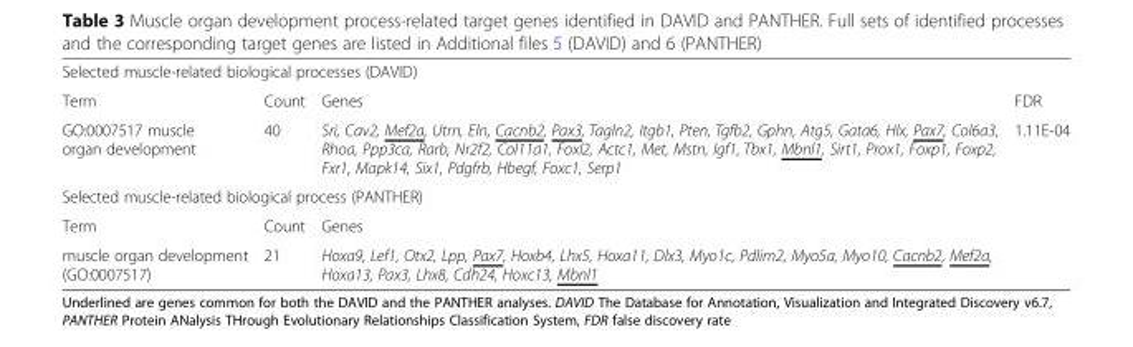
<table><tbody><tr><td colspan="4">Selected muscle-related biological processes (DAVID)</td></tr><tr><td>Term</td><td>Count</td><td>Genes</td><td>FDR</td></tr><tr><td>GO:0007517 muscle organ development</td><td>40</td><td>Sri, Cav2, Mef2a, Utrn, Eln, Cacnb2, Pax3, Tagln2, Itgb1, Pten, Tgfb2, Gphn, Atg5, Gata6, Hlx, Pax7, Col6a3, Rhoa, Ppp3ca, Rarb, Nr2f2, Col11a1, Foxl2, Actc1, Met, Mstn, Igf1, Tbx1, Mbnl1, Sirt1, Prox1, Foxp1, Foxp2, Fxr1, Mapk14, Six1, Pdgfrb, Hbegf, Foxc1, Serp1</td><td>1.11E-04</td></tr><tr><td colspan="4">Selected muscle-related biological process (PANTHER)</td></tr><tr><td>Term</td><td>Count</td><td>Genes</td><td></td></tr><tr><td>muscle organ development (GO:0007517)</td><td>21</td><td>Hoxa9, Lef1, Otx2, Lpp, Pax7, Hoxb4, Lhx5, Hoxa11, Dlx3, Myo1c, Pdlim2, Myo5a, Myo10, Cacnb2, Mef2a, Hoxa13, Pax3, Lhx8, Cdh24, Hoxc13, Mbnl1</td><td></td></tr></tbody></table>